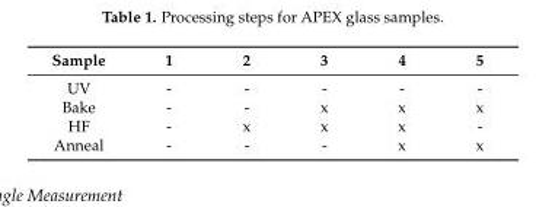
<table><thead><tr><td>Sample</td><td>1</td><td>2</td><td>3</td><td>4</td><td>5</td></tr></thead><tbody><tr><td>UV</td><td>-</td><td>-</td><td>-</td><td>-</td><td>-</td></tr><tr><td>Bake</td><td>-</td><td>-</td><td>x</td><td>x</td><td>x</td></tr><tr><td>HF</td><td>-</td><td>x</td><td>x</td><td>x</td><td>-</td></tr><tr><td>Anneal</td><td>-</td><td>-</td><td>-</td><td>x</td><td>x</td></tr></tbody></table>